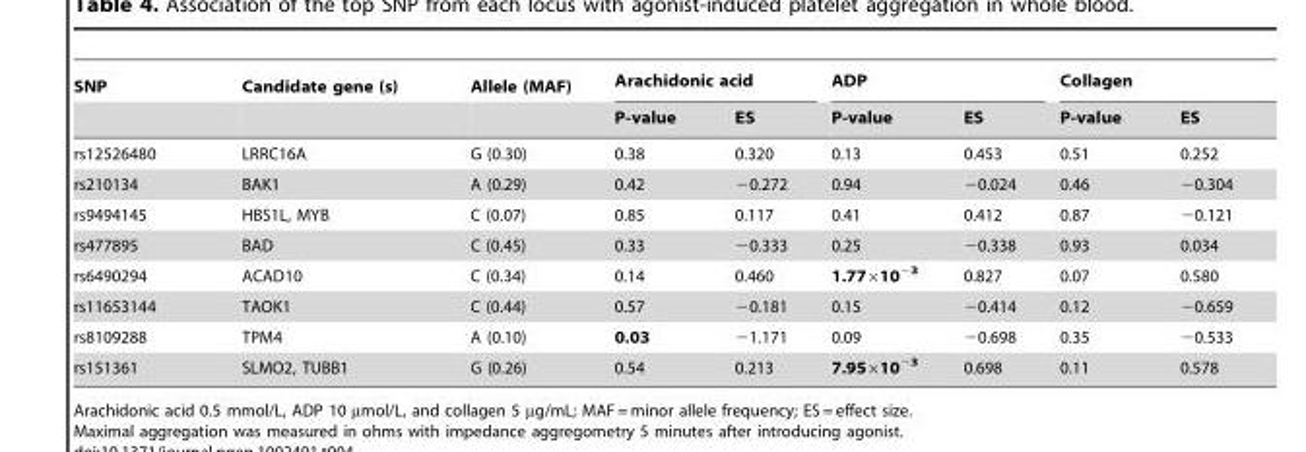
<table><thead><tr><td rowspan="2">SNP</td><td rowspan="2">Candidate gene (s)</td><td rowspan="2">Allele (MAF)</td><td colspan="2">Arachidonic acid</td><td colspan="2">ADP</td><td colspan="2">Collagen</td></tr><tr><td>P-value</td><td>ES</td><td>P-value</td><td>ES</td><td>P-value</td><td>ES</td></tr></thead><tbody><tr><td>rs12526480</td><td>LRRC16A</td><td>G (0.30)</td><td>0.38</td><td>0.320</td><td>0.13</td><td>0.453</td><td>0.51</td><td>0.252</td></tr><tr><td>rs210134</td><td>BAK1</td><td>A (0.29)</td><td>0.42</td><td>−0.272</td><td>0.94</td><td>−0.024</td><td>0.46</td><td>−0.304</td></tr><tr><td>rs9494145</td><td>HBS1L, MYB</td><td>C (0.07)</td><td>0.85</td><td>0.117</td><td>0.41</td><td>0.412</td><td>0.87</td><td>−0.121</td></tr><tr><td>rs477895</td><td>BAD</td><td>C (0.45)</td><td>0.33</td><td>−0.333</td><td>0.25</td><td>−0.338</td><td>0.93</td><td>0.034</td></tr><tr><td>rs6490294</td><td>ACAD10</td><td>C (0.34)</td><td>0.14</td><td>0.460</td><td>1.77×10<sup>−3</sup></td><td>0.827</td><td>0.07</td><td>0.580</td></tr><tr><td>rs11653144</td><td>TAOK1</td><td>C (0.44)</td><td>0.57</td><td>−0.181</td><td>0.15</td><td>−0.414</td><td>0.12</td><td>−0.659</td></tr><tr><td>rs8109288</td><td>TPM4</td><td>A (0.10)</td><td>0.03</td><td>−1.171</td><td>0.09</td><td>−0.698</td><td>0.35</td><td>−0.533</td></tr><tr><td>rs151361</td><td>SLMO2, TUBB1</td><td>G (0.26)</td><td>0.54</td><td>0.213</td><td>7.95×10<sup>−3</sup></td><td>0.698</td><td>0.11</td><td>0.578</td></tr></tbody></table>